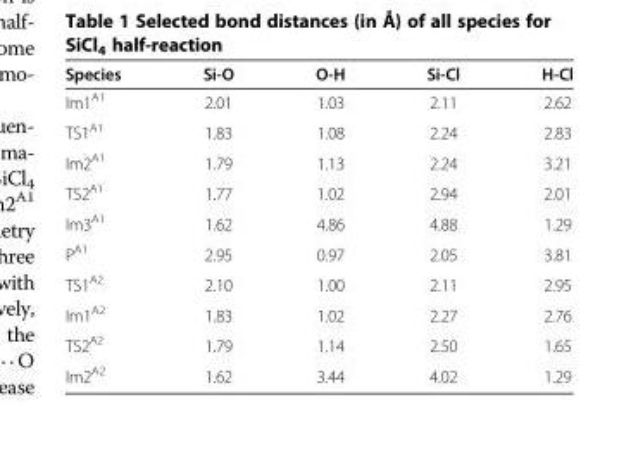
<table><thead><tr><td>Species</td><td>Si-O</td><td>O-H</td><td>Si-Cl</td><td>H-Cl</td></tr></thead><tbody><tr><td>Im1<sup>A1</sup></td><td>2.01</td><td>1.03</td><td>2.11</td><td>2.62</td></tr><tr><td>TS1<sup>A1</sup></td><td>1.83</td><td>1.08</td><td>2.24</td><td>2.83</td></tr><tr><td>Im2<sup>A1</sup></td><td>1.79</td><td>1.13</td><td>2.24</td><td>3.21</td></tr><tr><td>TS2<sup>A1</sup></td><td>1.77</td><td>1.02</td><td>2.94</td><td>2.01</td></tr><tr><td>Im3<sup>A1</sup></td><td>1.62</td><td>4.86</td><td>4.88</td><td>1.29</td></tr><tr><td>P<sup>A1</sup></td><td>2.95</td><td>0.97</td><td>2.05</td><td>3.81</td></tr><tr><td>TS1<sup>A2</sup></td><td>2.10</td><td>1.00</td><td>2.11</td><td>2.95</td></tr><tr><td>Im1<sup>A2</sup></td><td>1.83</td><td>1.02</td><td>2.27</td><td>2.76</td></tr><tr><td>TS2<sup>A2</sup></td><td>1.79</td><td>1.14</td><td>2.50</td><td>1.65</td></tr><tr><td>Im2<sup>A2</sup></td><td>1.62</td><td>3.44</td><td>4.02</td><td>1.29</td></tr></tbody></table>